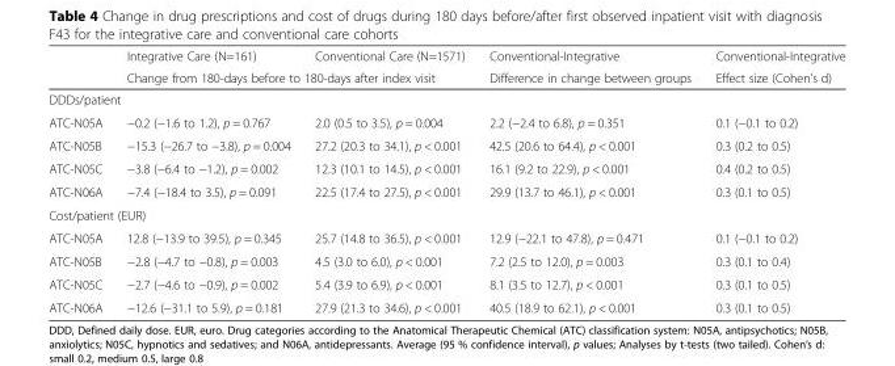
<table><thead><tr><td rowspan="2"></td><td>Integrative Care (N=161)</td><td>Conventional Care (N=1571)</td><td rowspan="2">Conventional-Integrative Difference in change between groups</td><td rowspan="2">Conventional-Integrative Effect size (Cohen’s d)</td></tr><tr><td colspan="2">Change from 180-days before to 180-days after index visit</td></tr></thead><tbody><tr><td colspan="5">DDDs/patient</td></tr><tr><td>ATC-N05A</td><td>−0.2 (−1.6 to 1.2), p = 0.767</td><td>2.0 (0.5 to 3.5), p = 0.004</td><td>2.2 (−2.4 to 6.8), p = 0.351</td><td>0.1 (−0.1 to 0.2)</td></tr><tr><td>ATC-N05B</td><td>−15.3 (−26.7 to −3.8), p = 0.004</td><td>27.2 (20.3 to 34.1), p &lt; 0.001</td><td>42.5 (20.6 to 64.4), p &lt; 0.001</td><td>0.3 (0.2 to 0.5)</td></tr><tr><td>ATC-N05C</td><td>−3.8 (−6.4 to −1.2), p = 0.002</td><td>12.3 (10.1 to 14.5), p &lt; 0.001</td><td>16.1 (9.2 to 22.9), p &lt; 0.001</td><td>0.4 (0.2 to 0.5)</td></tr><tr><td>ATC-N06A</td><td>−7.4 (−18.4 to 3.5), p = 0.091</td><td>22.5 (17.4 to 27.5), p &lt; 0.001</td><td>29.9 (13.7 to 46.1), p &lt; 0.001</td><td>0.3 (0.1 to 0.5)</td></tr><tr><td colspan="5">Cost/patient (EUR)</td></tr><tr><td>ATC-N05A</td><td>12.8 (−13.9 to 39.5), p = 0.345</td><td>25.7 (14.8 to 36.5), p &lt; 0.001</td><td>12.9 (−22.1 to 47.8), p = 0.471</td><td>0.1 (−0.1 to 0.2)</td></tr><tr><td>ATC-N05B</td><td>−2.8 (−4.7 to −0.8), p = 0.003</td><td>4.5 (3.0 to 6.0), p &lt; 0.001</td><td>7.2 (2.5 to 12.0), p = 0.003</td><td>0.3 (0.1 to 0.4)</td></tr><tr><td>ATC-N05C</td><td>−2.7 (−4.6 to −0.9), p = 0.002</td><td>5.4 (3.9 to 6.9), p &lt; 0.001</td><td>8.1 (3.5 to 12.7), p &lt; 0.001</td><td>0.3 (0.1 to 0.5)</td></tr><tr><td>ATC-N06A</td><td>−12.6 (−31.1 to 5.9), p = 0.181</td><td>27.9 (21.3 to 34.6), p &lt; 0.001</td><td>40.5 (18.9 to 62.1), p &lt; 0.001</td><td>0.3 (0.1 to 0.5)</td></tr></tbody></table>